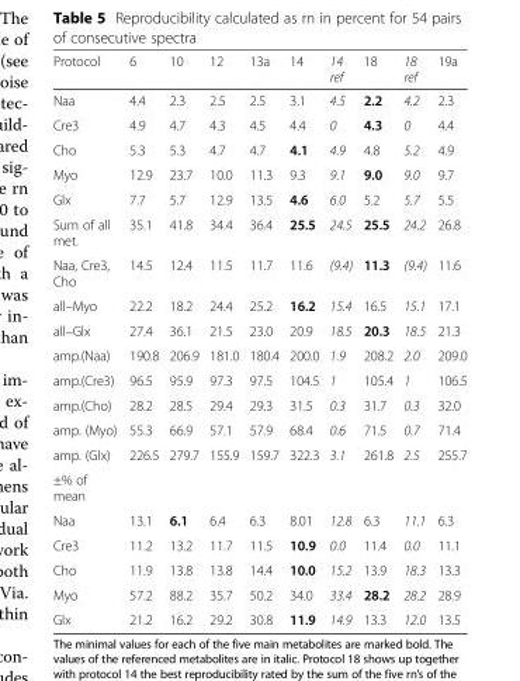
<table><thead><tr><td>Protocol</td><td>6</td><td>10</td><td>12</td><td>13a</td><td>14</td><td>14 ref</td><td>18</td><td>18 ref</td><td>19a</td></tr></thead><tbody><tr><td>Naa</td><td>4.4</td><td>2.3</td><td>2.5</td><td>2.5</td><td>3.1</td><td>4.5</td><td>2.2</td><td>4.2</td><td>2.3</td></tr><tr><td>Cre3</td><td>4.9</td><td>4.7</td><td>4.3</td><td>4.5</td><td>4.4</td><td>0</td><td>4.3</td><td>0</td><td>4.4</td></tr><tr><td>Cho</td><td>5.3</td><td>5.3</td><td>4.7</td><td>4.7</td><td>4.1</td><td>4.9</td><td>4.8</td><td>5.2</td><td>4.9</td></tr><tr><td>Myo</td><td>12.9</td><td>23.7</td><td>10.0</td><td>11.3</td><td>9.3</td><td>9.1</td><td>9.0</td><td>9.0</td><td>9.7</td></tr><tr><td>Glx</td><td>7.7</td><td>5.7</td><td>12.9</td><td>13.5</td><td>4.6</td><td>6.0</td><td>5.2</td><td>5.7</td><td>5.5</td></tr><tr><td>Sum of all met.</td><td>35.1</td><td>41.8</td><td>34.4</td><td>36.4</td><td>25.5</td><td>24.5</td><td>25.5</td><td>24.2</td><td>26.8</td></tr><tr><td>Naa, Cre3, Cho</td><td>14.5</td><td>12.4</td><td>11.5</td><td>11.7</td><td>11.6</td><td>(9.4)</td><td>11.3</td><td>(9.4)</td><td>11.6</td></tr><tr><td>all–Myo</td><td>22.2</td><td>18.2</td><td>24.4</td><td>25.2</td><td>16.2</td><td>15.4</td><td>16.5</td><td>15.1</td><td>17.1</td></tr><tr><td>all–Glx</td><td>27.4</td><td>36.1</td><td>21.5</td><td>23.0</td><td>20.9</td><td>18.5</td><td>20.3</td><td>18.5</td><td>21.3</td></tr><tr><td>amp.(Naa)</td><td>190.8</td><td>206.9</td><td>181.0</td><td>180.4</td><td>200.0</td><td>1.9</td><td>208.2</td><td>2.0</td><td>209.0</td></tr><tr><td>amp.(Cre3)</td><td>96.5</td><td>95.9</td><td>97.3</td><td>97.5</td><td>104.5</td><td>1</td><td>105.4</td><td>1</td><td>106.5</td></tr><tr><td>amp.(Cho)</td><td>28.2</td><td>28.5</td><td>29.4</td><td>29.3</td><td>31.5</td><td>0.3</td><td>31.7</td><td>0.3</td><td>32.0</td></tr><tr><td>amp. (Myo)</td><td>55.3</td><td>66.9</td><td>57.1</td><td>57.9</td><td>68.4</td><td>0.6</td><td>71.5</td><td>0.7</td><td>71.4</td></tr><tr><td>amp. (Glx)</td><td>226.5</td><td>279.7</td><td>155.9</td><td>159.7</td><td>322.3</td><td>3.1</td><td>261.8</td><td>2.5</td><td>255.7</td></tr><tr><td colspan="10">±% of mean</td></tr><tr><td>Naa</td><td>13.1</td><td>6.1</td><td>6.4</td><td>6.3</td><td>8.01</td><td>12.8</td><td>6.3</td><td>11.1</td><td>6.3</td></tr><tr><td>Cre3</td><td>11.2</td><td>13.2</td><td>11.7</td><td>11.5</td><td>10.9</td><td>0.0</td><td>11.4</td><td>0.0</td><td>11.1</td></tr><tr><td>Cho</td><td>11.9</td><td>13.8</td><td>13.8</td><td>14.4</td><td>10.0</td><td>15.2</td><td>13.9</td><td>18.3</td><td>13.3</td></tr><tr><td>Myo</td><td>57.2</td><td>88.2</td><td>35.7</td><td>50.2</td><td>34.0</td><td>33.4</td><td>28.2</td><td>28.2</td><td>28.9</td></tr><tr><td>Glx</td><td>21.2</td><td>16.2</td><td>29.2</td><td>30.8</td><td>11.9</td><td>14.9</td><td>13.3</td><td>12.0</td><td>13.5</td></tr></tbody></table>